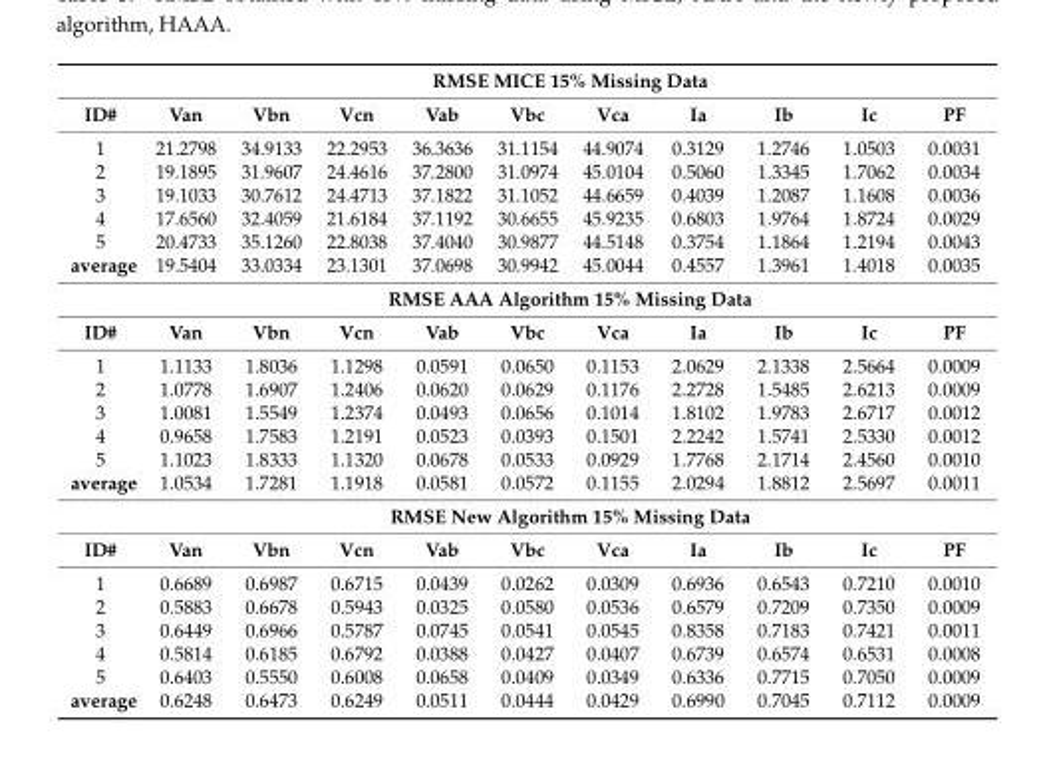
<table><thead><tr><td rowspan="2">ID#</td><td colspan="10">RMSE MICE 15% Missing Data</td></tr><tr><td>Van</td><td>Vbn</td><td>Vcn</td><td>Vab</td><td>Vbc</td><td>Vca</td><td>Ia</td><td>Ib</td><td>Ic</td><td>PF</td></tr></thead><tbody><tr><td>1</td><td>21.2798</td><td>34.9133</td><td>22.2953</td><td>36.3636</td><td>31.1154</td><td>44.9074</td><td>0.3129</td><td>1.2746</td><td>1.0503</td><td>0.0031</td></tr><tr><td>2</td><td>19.1895</td><td>31.9607</td><td>24.4616</td><td>37.2800</td><td>31.0974</td><td>45.0104</td><td>0.5060</td><td>1.3345</td><td>1.7062</td><td>0.0034</td></tr><tr><td>3</td><td>19.1033</td><td>30.7612</td><td>24.4713</td><td>37.1822</td><td>31.1052</td><td>44.6659</td><td>0.4039</td><td>1.2087</td><td>1.1608</td><td>0.0036</td></tr><tr><td>4</td><td>17.6560</td><td>32.4059</td><td>21.6184</td><td>37.1192</td><td>30.6655</td><td>45.9235</td><td>0.6803</td><td>1.9764</td><td>1.8724</td><td>0.0029</td></tr><tr><td>5</td><td>20.4733</td><td>35.1260</td><td>22.8038</td><td>37.4040</td><td>30.9877</td><td>44.5148</td><td>0.3754</td><td>1.1864</td><td>1.2194</td><td>0.0043</td></tr><tr><td rowspan="2">average</td><td>19.5404</td><td>33.0334</td><td>23.1301</td><td>37.0698</td><td>30.9942</td><td>45.0044</td><td>0.4557</td><td>1.3961</td><td>1.4018</td><td>0.0035</td></tr><tr><td colspan="10">RMSE AAA Algorithm 15% Missing Data</td></tr><tr><td>ID#</td><td>Van</td><td>Vbn</td><td>Vcn</td><td>Vab</td><td>Vbc</td><td>Vca</td><td>Ia</td><td>Ib</td><td>Ic</td><td>PF</td></tr><tr><td>1</td><td>1.1133</td><td>1.8036</td><td>1.1298</td><td>0.0591</td><td>0.0650</td><td>0.1153</td><td>2.0629</td><td>2.1338</td><td>2.5664</td><td>0.0009</td></tr><tr><td>2</td><td>1.0778</td><td>1.6907</td><td>1.2406</td><td>0.0620</td><td>0.0629</td><td>0.1176</td><td>2.2728</td><td>1.5485</td><td>2.6213</td><td>0.0009</td></tr><tr><td>3</td><td>1.0081</td><td>1.5549</td><td>1.2374</td><td>0.0493</td><td>0.0656</td><td>0.1014</td><td>1.8102</td><td>1.9783</td><td>2.6717</td><td>0.0012</td></tr><tr><td>4</td><td>0.9658</td><td>1.7583</td><td>1.2191</td><td>0.0523</td><td>0.0393</td><td>0.1501</td><td>2.2242</td><td>1.5741</td><td>2.5330</td><td>0.0012</td></tr><tr><td>5</td><td>1.1023</td><td>1.8333</td><td>1.1320</td><td>0.0678</td><td>0.0533</td><td>0.0929</td><td>1.7768</td><td>2.1714</td><td>2.4560</td><td>0.0010</td></tr><tr><td rowspan="2">average</td><td>1.0534</td><td>1.7281</td><td>1.1918</td><td>0.0581</td><td>0.0572</td><td>0.1155</td><td>2.0294</td><td>1.8812</td><td>2.5697</td><td>0.0011</td></tr><tr><td colspan="10">RMSE New Algorithm 15% Missing Data</td></tr><tr><td>ID#</td><td>Van</td><td>Vbn</td><td>Vcn</td><td>Vab</td><td>Vbc</td><td>Vca</td><td>Ia</td><td>Ib</td><td>Ic</td><td>PF</td></tr><tr><td>1</td><td>0.6689</td><td>0.6987</td><td>0.6715</td><td>0.0439</td><td>0.0262</td><td>0.0309</td><td>0.6936</td><td>0.6543</td><td>0.7210</td><td>0.0010</td></tr><tr><td>2</td><td>0.5883</td><td>0.6678</td><td>0.5943</td><td>0.0325</td><td>0.0580</td><td>0.0536</td><td>0.6579</td><td>0.7209</td><td>0.7350</td><td>0.0009</td></tr><tr><td>3</td><td>0.6449</td><td>0.6966</td><td>0.5787</td><td>0.0745</td><td>0.0541</td><td>0.0545</td><td>0.8358</td><td>0.7183</td><td>0.7421</td><td>0.0011</td></tr><tr><td>4</td><td>0.5814</td><td>0.6185</td><td>0.6792</td><td>0.0388</td><td>0.0427</td><td>0.0407</td><td>0.6739</td><td>0.6574</td><td>0.6531</td><td>0.0008</td></tr><tr><td>5</td><td>0.6403</td><td>0.5550</td><td>0.6008</td><td>0.0658</td><td>0.0409</td><td>0.0349</td><td>0.6336</td><td>0.7715</td><td>0.7050</td><td>0.0009</td></tr><tr><td>average</td><td>0.6248</td><td>0.6473</td><td>0.6249</td><td>0.0511</td><td>0.0444</td><td>0.0429</td><td>0.6990</td><td>0.7045</td><td>0.7112</td><td>0.0009</td></tr></tbody></table>